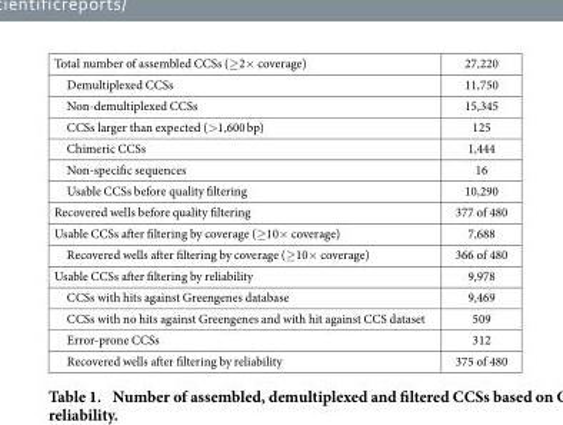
<table><tbody><tr><td>Total number of assembled CCSs (≥ 2× coverage)</td><td>27,220</td></tr><tr><td>Demultiplexed CCSs</td><td>11,750</td></tr><tr><td>Non-demultiplexed CCSs</td><td>15,345</td></tr><tr><td>CCSs larger than expected (&gt; 1,600 bp)</td><td>125</td></tr><tr><td>Chimeric CCSs</td><td>1,444</td></tr><tr><td>Non-specific sequences</td><td>16</td></tr><tr><td>Usable CCSs before quality filtering</td><td>10,290</td></tr><tr><td>Recovered wells before quality filtering</td><td>377 of 480</td></tr><tr><td>Usable CCSs after filtering by coverage (≥ 10× coverage)</td><td>7,688</td></tr><tr><td>Recovered wells after filtering by coverage (≥ 10× coverage)</td><td>366 of 480</td></tr><tr><td>Usable CCSs after filtering by reliability</td><td>9,978</td></tr><tr><td>CCSs with hits against Greengenes database</td><td>9,469</td></tr><tr><td>CCSs with no hits against Greengenes and with hit against CCS dataset</td><td>509</td></tr><tr><td>Error-prone CCSs</td><td>312</td></tr><tr><td>Recovered wells after filtering by reliability</td><td>375 of 480</td></tr></tbody></table>